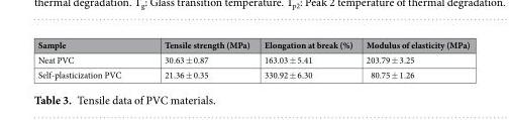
<table><thead><tr><td>Sample</td><td>Tensile strength (MPa)</td><td>Elongation at break (%)</td><td>Modulus of elasticity (MPa)</td></tr></thead><tbody><tr><td>Neat PVC</td><td>30.63 ± 0.87</td><td>163.03 ± 5.41</td><td>203.79 ± 3.25</td></tr><tr><td>Self-plasticization PVC</td><td>21.36 ± 0.35</td><td>330.92 ± 6.30</td><td>80.75 ± 1.26</td></tr></tbody></table>